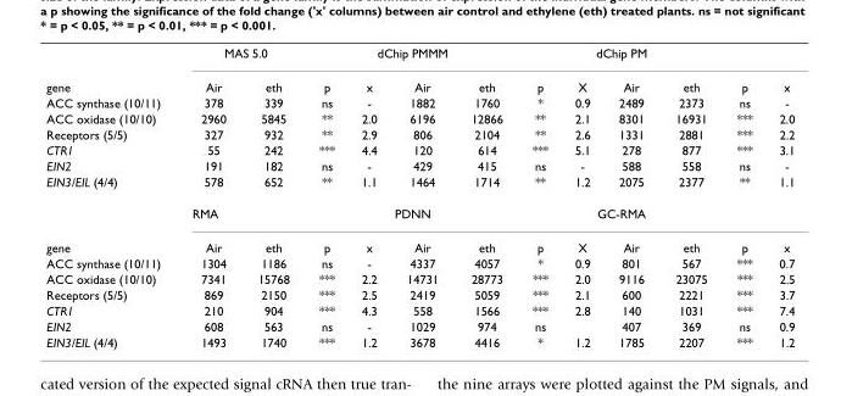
<table><thead><tr><td rowspan="2">gene</td><td colspan="2">MAS 5.0</td><td colspan="4">dChip PMMM</td><td colspan="4">dChip PM</td><td rowspan="2">p</td><td rowspan="2">x</td></tr><tr><td>Air</td><td>eth</td><td>p</td><td>x</td><td>Air</td><td>eth</td><td>p</td><td>X</td><td>Air</td><td>eth</td></tr></thead><tbody><tr><td>ACC synthase (10/11)</td><td>378</td><td>339</td><td>ns</td><td>-</td><td>1882</td><td>1760</td><td>*</td><td>0.9</td><td>2489</td><td>2373</td><td>ns</td><td>-</td></tr><tr><td>ACC oxidase (10/10)</td><td>2960</td><td>5845</td><td>**</td><td>2.0</td><td>6196</td><td>12866</td><td>**</td><td>2.1</td><td>8301</td><td>16931</td><td>***</td><td>2.0</td></tr><tr><td>Receptors (5/5)</td><td>327</td><td>932</td><td>**</td><td>2.9</td><td>806</td><td>2104</td><td>**</td><td>2.6</td><td>1331</td><td>2881</td><td>***</td><td>2.2</td></tr><tr><td>CTR1</td><td>55</td><td>242</td><td>***</td><td>4.4</td><td>120</td><td>614</td><td>***</td><td>5.1</td><td>278</td><td>877</td><td>***</td><td>3.1</td></tr><tr><td>EIN2</td><td>191</td><td>182</td><td>ns</td><td>-</td><td>429</td><td>415</td><td>ns</td><td>-</td><td>588</td><td>558</td><td>ns</td><td>-</td></tr><tr><td rowspan="2">EIN3/EIL (4/4)</td><td>578</td><td>652</td><td>**</td><td>1.1</td><td>1464</td><td>1714</td><td>**</td><td>1.2</td><td>2075</td><td>2377</td><td>**</td><td>1.1</td></tr><tr><td colspan="2">RMA</td><td colspan="4">PDNN</td><td colspan="4">GC-RMA</td><td></td><td></td></tr><tr><td>gene</td><td>Air</td><td>eth</td><td>p</td><td>x</td><td>Air</td><td>eth</td><td>p</td><td>X</td><td>Air</td><td>eth</td><td>p</td><td>x</td></tr><tr><td>ACC synthase (10/11)</td><td>1304</td><td>1186</td><td>ns</td><td>-</td><td>4337</td><td>4057</td><td>*</td><td>0.9</td><td>801</td><td>567</td><td>***</td><td>0.7</td></tr><tr><td>ACC oxidase (10/10)</td><td>7341</td><td>15768</td><td>***</td><td>2.2</td><td>14731</td><td>28773</td><td>***</td><td>2.0</td><td>9116</td><td>23075</td><td>***</td><td>2.5</td></tr><tr><td>Receptors (5/5)</td><td>869</td><td>2150</td><td>***</td><td>2.5</td><td>2419</td><td>5059</td><td>***</td><td>2.1</td><td>600</td><td>2221</td><td>***</td><td>3.7</td></tr><tr><td>CTR1</td><td>210</td><td>904</td><td>***</td><td>4.3</td><td>558</td><td>1566</td><td>***</td><td>2.8</td><td>140</td><td>1031</td><td>***</td><td>7.4</td></tr><tr><td>EIN2</td><td>608</td><td>563</td><td>ns</td><td>-</td><td>1029</td><td>974</td><td>ns</td><td></td><td>407</td><td>369</td><td>ns</td><td>0.9</td></tr><tr><td>EIN3/EIL (4/4)</td><td>1493</td><td>1740</td><td>***</td><td>1.2</td><td>3678</td><td>4416</td><td>*</td><td>1.2</td><td>1785</td><td>2207</td><td>***</td><td>1.2</td></tr></tbody></table>